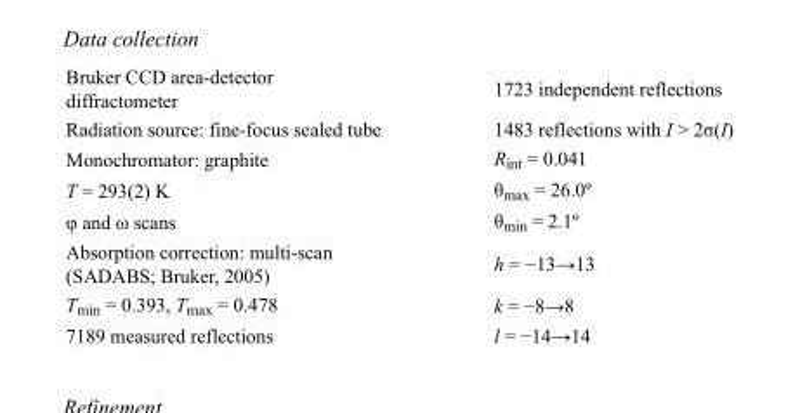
<table><tbody><tr><td>Bruker CCD area-detector diffractometer</td><td>1723 independent reflections</td></tr><tr><td>Radiation source: fine-focus sealed tube</td><td>1483 reflections with I &gt; 2σ(I)</td></tr><tr><td>Monochromator: graphite</td><td>R<sub>int</sub> = 0.041</td></tr><tr><td>T = 293(2) K</td><td>θ<sub>max</sub> = 26.0º</td></tr><tr><td>φ and ω scans</td><td>θ<sub>min</sub> = 2.1º</td></tr><tr><td>Absorption correction: multi-scan (SADABS; Bruker, 2005)</td><td>h = −13→13</td></tr><tr><td>T<sub>min</sub> = 0.393, T<sub>max</sub> = 0.478</td><td>k = −8→8</td></tr><tr><td>7189 measured reflections</td><td>l = −14→14</td></tr></tbody></table>